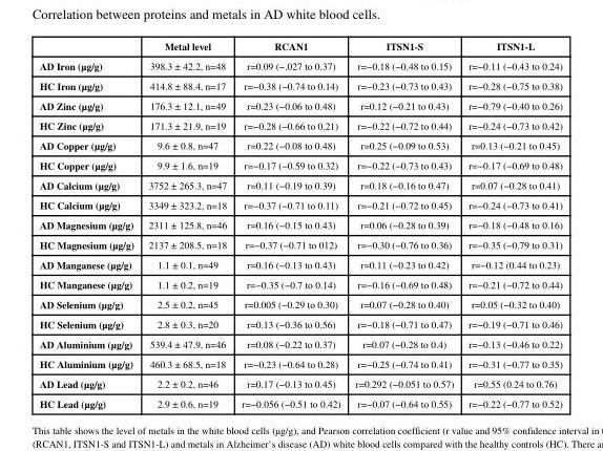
<table><thead><tr><td></td><td>Metal level</td><td>RCAN1</td><td>ITSN1-S</td><td>ITSN1-L</td></tr></thead><tbody><tr><td>AD Iron (μg/g)</td><td>398.3 ± 42.2, n=48</td><td>r=0.09 (−.027 to 0.37)</td><td>r=−0.18 (−0.48 to 0.15)</td><td>r=−0.11 (−0.43 to 0.24)</td></tr><tr><td>HC Iron (μg/g)</td><td>414.8 ± 88.4, n=17</td><td>r=−0.38 (−0.74 to 0.14)</td><td>r=−0.23 (−0.73 to 0.43)</td><td>r=−0.28 (−0.75 to 0.38)</td></tr><tr><td>AD Zinc (μg/g)</td><td>176.3 ± 12.1, n=49</td><td>r=0.23 (−0.06 to 0.48)</td><td>r=0.12 (−0.21 to 0.43)</td><td>r=−0.79 (−0.40 to 0.26)</td></tr><tr><td>HC Zinc (μg/g)</td><td>171.3 ± 21.9, n=19</td><td>r=−0.28 (−0.66 to 0.21)</td><td>r=−0.22 (−0.72 to 0.44)</td><td>r=−0.24 (−0.73 to 0.42)</td></tr><tr><td>AD Copper (μg/g)</td><td>9.6 ± 0.8, n=47</td><td>r=0.22 (−0.08 to 0.48)</td><td>r=0.25 (−0.09 to 0.53)</td><td>r=0.13 (−0.21 to 0.45)</td></tr><tr><td>HC Copper (μg/g)</td><td>9.9 ± 1.6, n=19</td><td>r=−0.17 (−0.59 to 0.32)</td><td>r=−0.22 (−0.73 to 0.43)</td><td>r=−0.17 (−0.69 to 0.48)</td></tr><tr><td>AD Calcium (μg/g)</td><td>3752 ± 265.3, n=47</td><td>r=0.11 (−0.19 to 0.39)</td><td>r=0.18 (−0.16 to 0.47)</td><td>r=0.07 (−0.28 to 0.41)</td></tr><tr><td>HC Calcium (μg/g)</td><td>3349 ± 323.2, n=18</td><td>r=−0.37 (−0.71 to 0.11)</td><td>r=−0.21 (−0.72 to 0.45)</td><td>r=−0.24 (−0.73 to 0.41)</td></tr><tr><td>AD Magnesium (μg/g)</td><td>2311 ± 125.8, n=46</td><td>r=0.16 (−0.15 to 0.43)</td><td>r=0.06 (−0.28 to 0.39)</td><td>r=−0.18 (−0.48 to 0.16)</td></tr><tr><td>HC Magnesium (μg/g)</td><td>2137 ± 208.5, n=18</td><td>r=−0.37 (−0.71 to 012)</td><td>r=−0.30 (−0.76 to 0.36)</td><td>r=−0.35 (−0.79 to 0.31)</td></tr><tr><td>AD Manganese (μg/g)</td><td>1.1 ± 0.1, n=49</td><td>r=0.16 (−0.13 to 0.43)</td><td>r=0.11 (−0.23 to 0.42)</td><td>r=−0.12 (0.44 to 0.23)</td></tr><tr><td>HC Manganese (μg/g)</td><td>1.1 ± 0.2, n=19</td><td>r=−0.35 (−0.7 to 0.14)</td><td>r=−0.16 (−0.69 to 0.48)</td><td>r=−0.21 (−0.72 to 0.44)</td></tr><tr><td>AD Selenium (μg/g)</td><td>2.5 ± 0.2, n=45</td><td>r=0.005 (−0.29 to 0.30)</td><td>r=0.07 (−0.28 to 0.40)</td><td>r=0.05 (−0.32 to 0.40)</td></tr><tr><td>HC Selenium (μg/g)</td><td>2.8 ± 0.3, n=20</td><td>r=0.13 (−0.36 to 0.56)</td><td>r=−0.18 (−0.71 to 0.47)</td><td>r=−0.19 (−0.71 to 0.46)</td></tr><tr><td>AD Aluminium (μg/g)</td><td>539.4 ± 47.9, n=46</td><td>r=0.08 (−0.22 to 0.37)</td><td>r=0.07 (−0.28 to 0.4)</td><td>r=−0.13 (−0.46 to 0.22)</td></tr><tr><td>HC Aluminium (μg/g)</td><td>460.3 ± 68.5, n=18</td><td>r=−0.23 (−0.64 to 0.28)</td><td>r=−0.25 (−0.74 to 0.41)</td><td>r=−0.31 (−0.77 to 0.35)</td></tr><tr><td>AD Lead (μg/g)</td><td>2.2 ± 0.2, n=46</td><td>r=0.17 (−0.13 to 0.45)</td><td>r=0.292 (−0.051 to 0.57)</td><td>r=0,55 (0.24 to 0.76)</td></tr><tr><td>HC Lead (μg/g)</td><td>2.9 ± 0.6, n=19</td><td>r=−0.056 (−0.51 to 0.42)</td><td>r=−0.07 (−0.64 to 0.55)</td><td>r=−0.22 (−0.77 to 0.52)</td></tr></tbody></table>